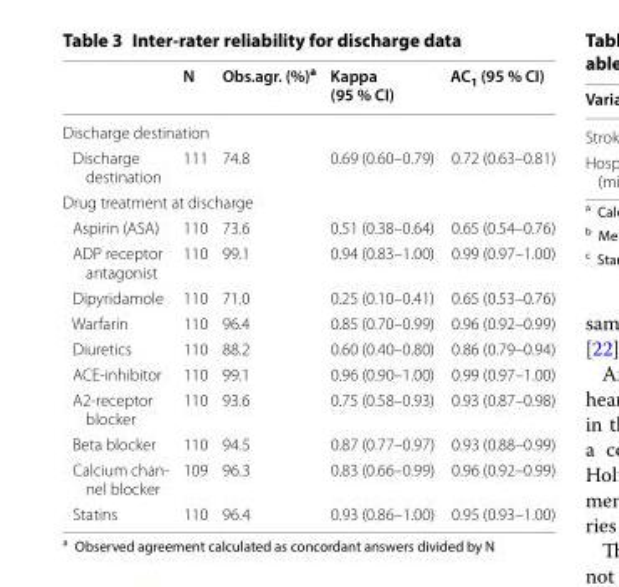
<table><thead><tr><td></td><td>N</td><td>Obs.agr. (%)<sup>a</sup></td><td>Kappa (95 % CI)</td><td>AC<sub>1</sub> (95 % CI)</td></tr></thead><tbody><tr><td colspan="5">Discharge destination</td></tr><tr><td>Discharge destination</td><td>111</td><td>74.8</td><td>0.69 (0.60–0.79)</td><td>0.72 (0.63–0.81)</td></tr><tr><td colspan="5">Drug treatment at discharge</td></tr><tr><td>Aspirin (ASA)</td><td>110</td><td>73.6</td><td>0.51 (0.38–0.64)</td><td>0.65 (0.54–0.76)</td></tr><tr><td>ADP receptor antagonist</td><td>110</td><td>99.1</td><td>0.94 (0.83–1.00)</td><td>0.99 (0.97–1.00)</td></tr><tr><td>Dipyridamole</td><td>110</td><td>71.0</td><td>0.25 (0.10–0.41)</td><td>0.65 (0.53–0.76)</td></tr><tr><td>Warfarin</td><td>110</td><td>96.4</td><td>0.85 (0.70–0.99)</td><td>0.96 (0.92–0.99)</td></tr><tr><td>Diuretics</td><td>110</td><td>88.2</td><td>0.60 (0.40–0.80)</td><td>0.86 (0.79–0.94)</td></tr><tr><td>ACE-inhibitor</td><td>110</td><td>99.1</td><td>0.96 (0.90–1.00)</td><td>0.99 (0.97–1.00)</td></tr><tr><td>A2-receptor blocker</td><td>110</td><td>93.6</td><td>0.75 (0.58–0.93)</td><td>0.93 (0.87–0.98)</td></tr><tr><td>Beta blocker</td><td>110</td><td>94.5</td><td>0.87 (0.77–0.97)</td><td>0.93 (0.88–0.99)</td></tr><tr><td>Calcium chan- nel blocker</td><td>109</td><td>96.3</td><td>0.83 (0.66–0.99)</td><td>0.96 (0.92–0.99)</td></tr><tr><td>Statins</td><td>110</td><td>96.4</td><td>0.93 (0.86–1.00)</td><td>0.95 (0.93–1.00)</td></tr></tbody></table>